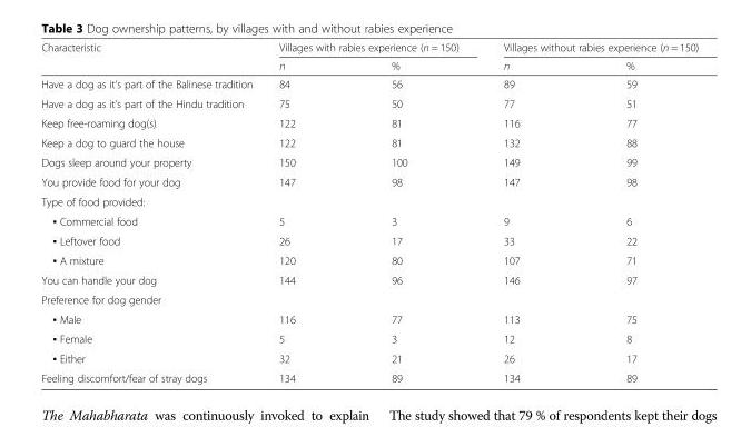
<table><thead><tr><td rowspan="2">Characteristic</td><td colspan="2">Villages with rabies experience (n = 150)</td><td colspan="2">Villages without rabies experience (n = 150)</td></tr><tr><td>n</td><td>%</td><td>n</td><td>%</td></tr></thead><tbody><tr><td>Have a dog as it’s part of the Balinese tradition</td><td>84</td><td>56</td><td>89</td><td>59</td></tr><tr><td>Have a dog as it’s part of the Hindu tradition</td><td>75</td><td>50</td><td>77</td><td>51</td></tr><tr><td>Keep free-roaming dog(s)</td><td>122</td><td>81</td><td>116</td><td>77</td></tr><tr><td>Keep a dog to guard the house</td><td>122</td><td>81</td><td>132</td><td>88</td></tr><tr><td>Dogs sleep around your property</td><td>150</td><td>100</td><td>149</td><td>99</td></tr><tr><td>You provide food for your dog</td><td>147</td><td>98</td><td>147</td><td>98</td></tr><tr><td colspan="5">Type of food provided:</td></tr><tr><td>▪ Commercial food</td><td>5</td><td>3</td><td>9</td><td>6</td></tr><tr><td>▪ Leftover food</td><td>26</td><td>17</td><td>33</td><td>22</td></tr><tr><td>▪ A mixture</td><td>120</td><td>80</td><td>107</td><td>71</td></tr><tr><td>You can handle your dog</td><td>144</td><td>96</td><td>146</td><td>97</td></tr><tr><td colspan="5">Preference for dog gender</td></tr><tr><td>▪ Male</td><td>116</td><td>77</td><td>113</td><td>75</td></tr><tr><td>▪ Female</td><td>5</td><td>3</td><td>12</td><td>8</td></tr><tr><td>▪ Either</td><td>32</td><td>21</td><td>26</td><td>17</td></tr><tr><td>Feeling discomfort/fear of stray dogs</td><td>134</td><td>89</td><td>134</td><td>89</td></tr></tbody></table>